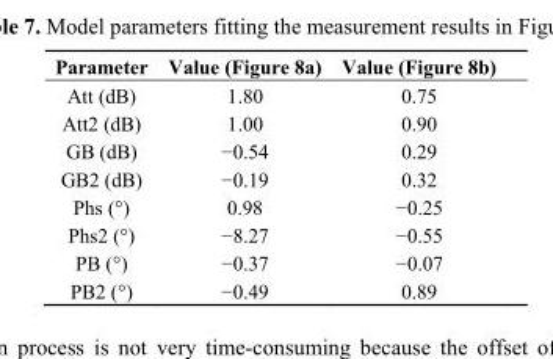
<table><thead><tr><td>Parameter</td><td>Value (Figure 8a)</td><td>Value (Figure 8b)</td></tr></thead><tbody><tr><td>Att (dB)</td><td>1.80</td><td>0.75</td></tr><tr><td>Att2 (dB)</td><td>1.00</td><td>0.90</td></tr><tr><td>GB (dB)</td><td>−0.54</td><td>0.29</td></tr><tr><td>GB2 (dB)</td><td>−0.19</td><td>0.32</td></tr><tr><td>Phs (°)</td><td>0.98</td><td>−0.25</td></tr><tr><td>Phs2 (°)</td><td>−8.27</td><td>−0.55</td></tr><tr><td>PB (°)</td><td>−0.37</td><td>−0.07</td></tr><tr><td>PB2 (°)</td><td>−0.49</td><td>0.89</td></tr></tbody></table>